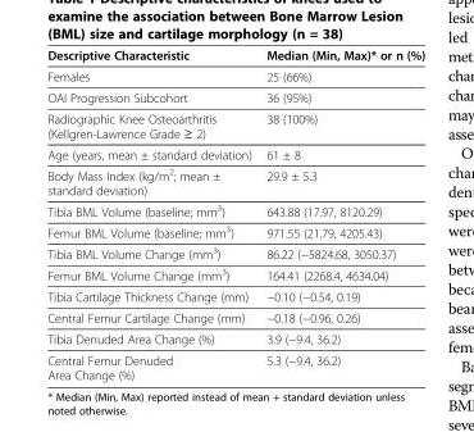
<table><thead><tr><td>Descriptive Characteristic</td><td>Median (Min, Max)* or n (%)</td></tr></thead><tbody><tr><td>Females</td><td>25 (66%)</td></tr><tr><td>OAI Progression Subcohort</td><td>36 (95%)</td></tr><tr><td>Radiographic Knee Osteoarthritis (Kellgren-Lawrence Grade ≥ 2)</td><td>38 (100%)</td></tr><tr><td>Age (years, mean ± standard deviation)</td><td>61 ± 8</td></tr><tr><td>Body Mass Index (kg/m<sup>2</sup>; mean ± standard deviation)</td><td>29.9 ± 5.3</td></tr><tr><td>Tibia BML Volume (baseline; mm<sup>3</sup>)</td><td>643.88 (17.97, 8120.29)</td></tr><tr><td>Femur BML Volume (baseline; mm<sup>3</sup>)</td><td>971.55 (21.79, 4205.43)</td></tr><tr><td>Tibia BML Volume Change (mm<sup>3</sup>)</td><td>86.22 (−5824.68, 3050.37)</td></tr><tr><td>Femur BML Volume Change (mm<sup>3</sup>)</td><td>164.41 (2268.4, 4634.04)</td></tr><tr><td>Tibia Cartilage Thickness Change (mm)</td><td>−0.10 (−0.54, 0.19)</td></tr><tr><td>Central Femur Cartilage Change (mm)</td><td>−0.18 (−0.96, 0.26)</td></tr><tr><td>Tibia Denuded Area Change (%)</td><td>3.9 (−9.4, 36.2)</td></tr><tr><td>Central Femur Denuded Area Change (%)</td><td>5.3 (−9.4, 36.2)</td></tr></tbody></table>